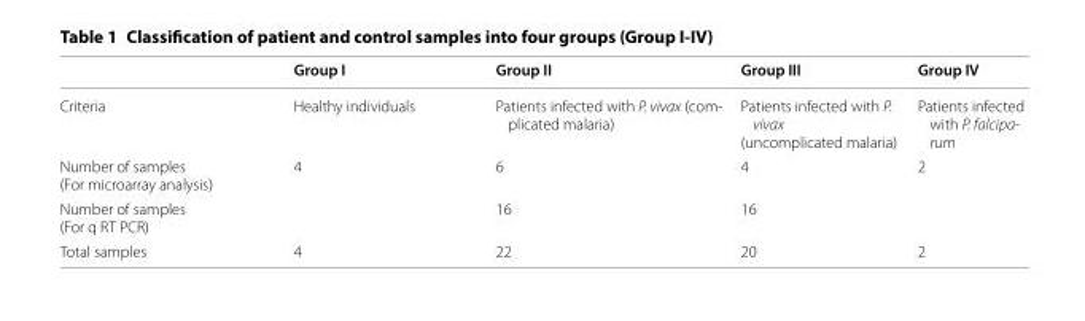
<table><thead><tr><td></td><td>Group I</td><td>Group II</td><td>Group III</td><td>Group IV</td></tr></thead><tbody><tr><td>Criteria</td><td>Healthy individuals</td><td>Patients infected with P. vivax (com- plicated malaria)</td><td>Patients infected with P. vivax (uncomplicated malaria)</td><td>Patients infected with P. falcipa- rum</td></tr><tr><td>Number of samples (For microarray analysis)</td><td>4</td><td>6</td><td>4</td><td>2</td></tr><tr><td>Number of samples (For q RT PCR)</td><td></td><td>16</td><td>16</td><td></td></tr><tr><td>Total samples</td><td>4</td><td>22</td><td>20</td><td>2</td></tr></tbody></table>